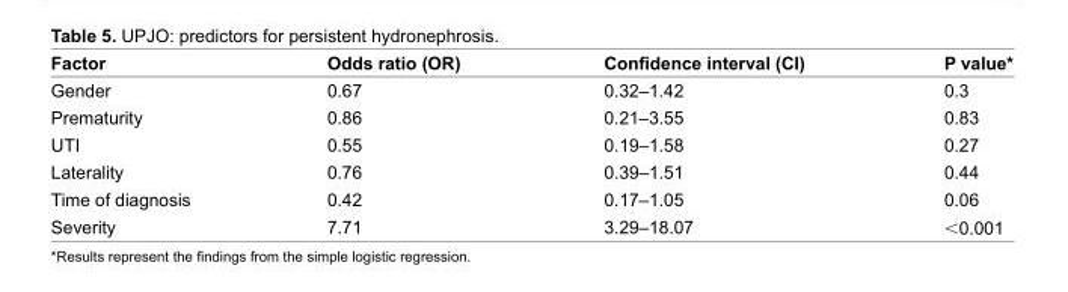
<table><thead><tr><td>Factor</td><td>Odds ratio (OR)</td><td>Confidence interval (CI)</td><td>p value*</td></tr></thead><tbody><tr><td>gender</td><td>0.67</td><td>0.32–1.42</td><td>0.3</td></tr><tr><td>Prematurity</td><td>0.86</td><td>0.21–3.55</td><td>0.83</td></tr><tr><td>UTi</td><td>0.55</td><td>0.19–1.58</td><td>0.27</td></tr><tr><td>Laterality</td><td>0.76</td><td>0.39–1.51</td><td>0.44</td></tr><tr><td>Time of diagnosis</td><td>0.42</td><td>0.17–1.05</td><td>0.06</td></tr><tr><td>severity</td><td>7.71</td><td>3.29–18.07</td><td>&lt;0.001</td></tr></tbody></table>